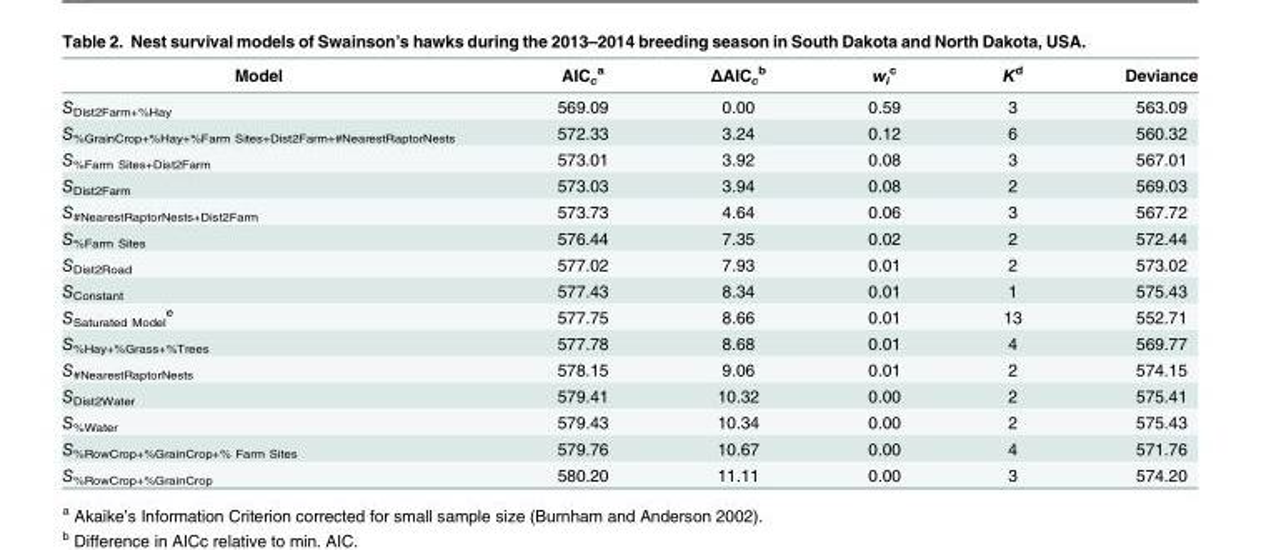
<table><thead><tr><td>Model</td><td>AIC<sub>c</sub> <sup>a</sup></td><td>ΔAICc b</td><td>w<sub>i</sub> <sup>c</sup></td><td>K<sup>d</sup></td><td>Deviance</td></tr></thead><tbody><tr><td>S<sub>Dist2Farm+%Hay</sub></td><td>569.09</td><td>0.00</td><td>0.59</td><td>3</td><td>563.09</td></tr><tr><td>S<sub>%GrainCrop+%Hay+%Farm Sites+Dist2Farm+#NearestRaptorNests</sub></td><td>572.33</td><td>3.24</td><td>0.12</td><td>6</td><td>560.32</td></tr><tr><td>S<sub>%Farm Sites+Dist2Farm</sub></td><td>573.01</td><td>3.92</td><td>0.08</td><td>3</td><td>567.01</td></tr><tr><td>S<sub>Dist2Farm</sub></td><td>573.03</td><td>3.94</td><td>0.08</td><td>2</td><td>569.03</td></tr><tr><td>S<sub>#NearestRaptorNests+Dist2Farm</sub></td><td>573.73</td><td>4.64</td><td>0.06</td><td>3</td><td>567.72</td></tr><tr><td>S<sub>%Farm Sites</sub></td><td>576.44</td><td>7.35</td><td>0.02</td><td>2</td><td>572.44</td></tr><tr><td>S<sub>Dist2Road</sub></td><td>577.02</td><td>7.93</td><td>0.01</td><td>2</td><td>573.02</td></tr><tr><td>S<sub>Constant</sub></td><td>577.43</td><td>8.34</td><td>0.01</td><td>1</td><td>575.43</td></tr><tr><td>S<sub>Saturated Model</sub> <sup>e</sup></td><td>577.75</td><td>8.66</td><td>0.01</td><td>13</td><td>552.71</td></tr><tr><td>S<sub>%Hay+%Grass+%Trees</sub></td><td>577.78</td><td>8.68</td><td>0.01</td><td>4</td><td>569.77</td></tr><tr><td>S<sub>#NearestRaptorNests</sub></td><td>578.15</td><td>9.06</td><td>0.01</td><td>2</td><td>574.15</td></tr><tr><td>S<sub>Dist2Water</sub></td><td>579.41</td><td>10.32</td><td>0.00</td><td>2</td><td>575.41</td></tr><tr><td>S<sub>%Water</sub></td><td>579.43</td><td>10.34</td><td>0.00</td><td>2</td><td>575.43</td></tr><tr><td>S<sub>%RowCrop+%GrainCrop+% Farm Sites</sub></td><td>579.76</td><td>10.67</td><td>0.00</td><td>4</td><td>571.76</td></tr><tr><td>S<sub>%RowCrop+%GrainCrop</sub></td><td>580.20</td><td>11.11</td><td>0.00</td><td>3</td><td>574.20</td></tr></tbody></table>